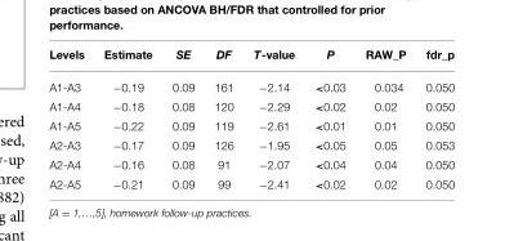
<table><thead><tr><td>Levels</td><td>Estimate</td><td>SE</td><td>DF</td><td>T-value</td><td>P</td><td>RAW_P</td><td>fdr_p</td></tr></thead><tbody><tr><td>A1-A3</td><td>−0.19</td><td>0.09</td><td>161</td><td>−2.14</td><td>&lt;0.03</td><td>0.034</td><td>0.050</td></tr><tr><td>A1-A4</td><td>−0.18</td><td>0.08</td><td>120</td><td>−2.29</td><td>&lt;0.02</td><td>0.02</td><td>0.050</td></tr><tr><td>A1-A5</td><td>−0.22</td><td>0.09</td><td>119</td><td>−2.61</td><td>&lt;0.01</td><td>0.01</td><td>0.050</td></tr><tr><td>A2-A3</td><td>−0.17</td><td>0.09</td><td>126</td><td>−1.95</td><td>&lt;0.05</td><td>0.05</td><td>0.053</td></tr><tr><td>A2-A4</td><td>−0.16</td><td>0.08</td><td>91</td><td>−2.07</td><td>&lt;0.04</td><td>0.04</td><td>0.050</td></tr><tr><td>A2-A5</td><td>−0.21</td><td>0.09</td><td>99</td><td>−2.41</td><td>&lt;0.02</td><td>0.02</td><td>0.050</td></tr></tbody></table>